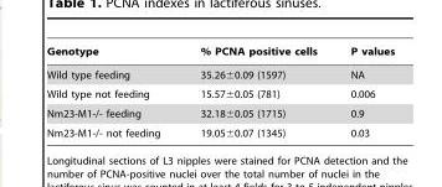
<table><thead><tr><td>Genotype</td><td>% PCNA positive cells</td><td>P values</td></tr></thead><tbody><tr><td>Wild type feeding</td><td>35.26±0.09 (1597)</td><td>NA</td></tr><tr><td>Wild type not feeding</td><td>15.57±0.05 (781)</td><td>0.006</td></tr><tr><td>Nm23-M1-/- feeding</td><td>32.18±0.05 (1715)</td><td>0.9</td></tr><tr><td>Nm23-M1-/- not feeding</td><td>19.05±0.07 (1345)</td><td>0.03</td></tr></tbody></table>